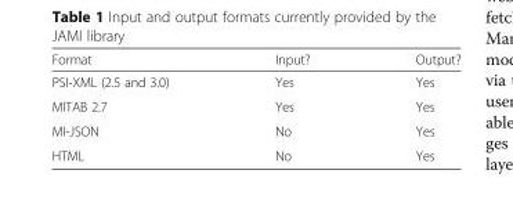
<table><thead><tr><td>Format</td><td>Input?</td><td>Output?</td></tr></thead><tbody><tr><td>PSI-XML (2.5 and 3.0)</td><td>Yes</td><td>Yes</td></tr><tr><td>MITAB 2.7</td><td>Yes</td><td>Yes</td></tr><tr><td>MI-JSON</td><td>No</td><td>Yes</td></tr><tr><td>HTML</td><td>No</td><td>Yes</td></tr></tbody></table>